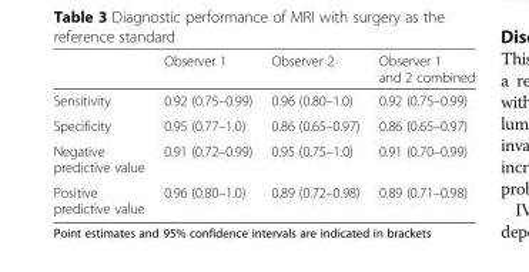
<table><thead><tr><td></td><td>Observer 1</td><td>Observer 2</td><td>Observer 1 and 2 combined</td></tr></thead><tbody><tr><td>Sensitivity</td><td>0.92 (0.75–0.99)</td><td>0.96 (0.80–1.0)</td><td>0.92 (0.75–0.99)</td></tr><tr><td>Specificity</td><td>0.95 (0.77–1.0)</td><td>0.86 (0.65–0.97)</td><td>0.86 (0.65–0.97)</td></tr><tr><td>Negative predictive value</td><td>0.91 (0.72–0.99)</td><td>0.95 (0.75–1.0)</td><td>0.91 (0.70–0.99)</td></tr><tr><td>Positive predictive value</td><td>0.96 (0.80–1.0)</td><td>0.89 (0.72–0.98)</td><td>0.89 (0.71–0.98)</td></tr></tbody></table>